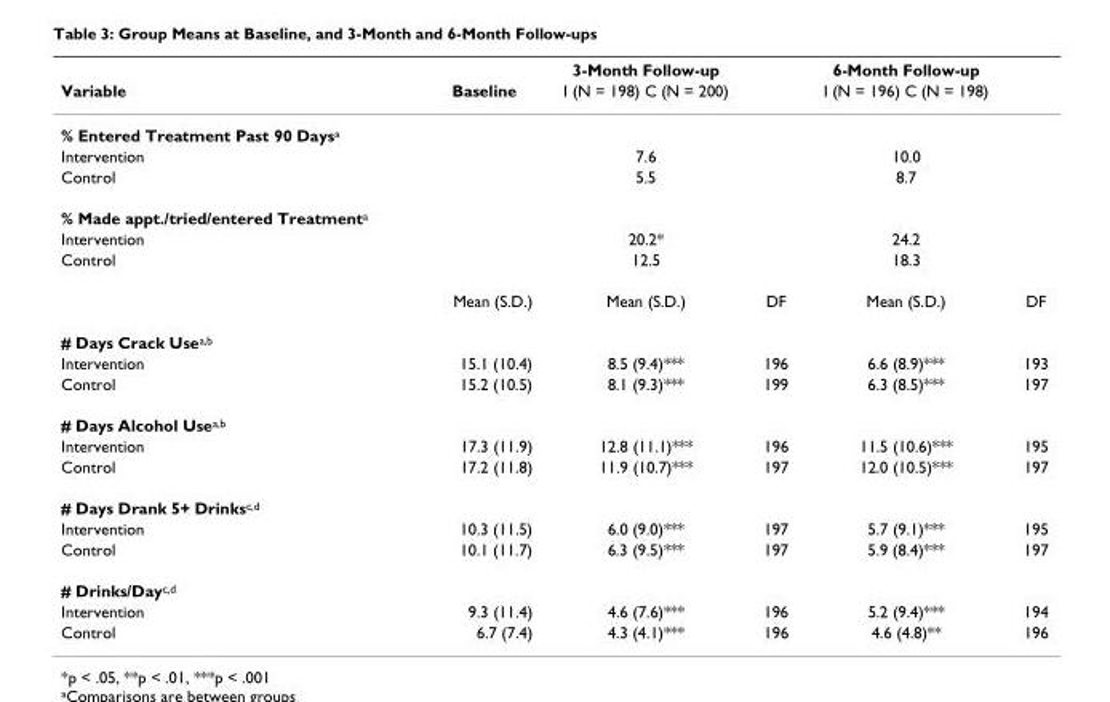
<table><thead><tr><td rowspan="2">Variable</td><td rowspan="2">Baseline</td><td rowspan="2">3-Month Follow-up I (N = 198) C (N = 200)</td><td rowspan="2"></td><td rowspan="2">6-Month Follow-up I (N = 196) C (N = 198)</td><td rowspan="2"></td></tr><tr></tr></thead><tbody><tr><td colspan="6">% Entered Treatment Past 90 Days<sup>a</sup></td></tr><tr><td>Intervention</td><td></td><td>7.6</td><td></td><td>10.0</td><td></td></tr><tr><td>Control</td><td></td><td>5.5</td><td></td><td>8.7</td><td></td></tr><tr><td colspan="6">% Made appt./tried/entered Treatment<sup>a</sup></td></tr><tr><td>Intervention</td><td></td><td>20.2*</td><td></td><td>24.2</td><td></td></tr><tr><td rowspan="2">Control</td><td></td><td>12.5</td><td></td><td>18.3</td><td></td></tr><tr><td>Mean (S.D.)</td><td>Mean (S.D.)</td><td>DF</td><td>Mean (S.D.)</td><td>DF</td></tr><tr><td colspan="6"># Days Crack Use<sup>a,b</sup></td></tr><tr><td>Intervention</td><td>15.1 (10.4)</td><td>8.5 (9.4)***</td><td>196</td><td>6.6 (8.9)***</td><td>193</td></tr><tr><td>Control</td><td>15.2 (10.5)</td><td>8.1 (9.3)***</td><td>199</td><td>6.3 (8.5)***</td><td>197</td></tr><tr><td colspan="6"># Days Alcohol Use<sup>a,b</sup></td></tr><tr><td>Intervention</td><td>17.3 (11.9)</td><td>12.8 (11.1)***</td><td>196</td><td>11.5 (10.6)***</td><td>195</td></tr><tr><td>Control</td><td>17.2 (11.8)</td><td>11.9 (10.7)***</td><td>197</td><td>12.0 (10.5)***</td><td>197</td></tr><tr><td colspan="6"># Days Drank 5+ Drinks<sup>c,d</sup></td></tr><tr><td>Intervention</td><td>10.3 (11.5)</td><td>6.0 (9.0)***</td><td>197</td><td>5.7 (9.1)***</td><td>195</td></tr><tr><td>Control</td><td>10.1 (11.7)</td><td>6.3 (9.5)***</td><td>197</td><td>5.9 (8.4)***</td><td>197</td></tr><tr><td colspan="6"># Drinks/Day<sup>c,d</sup></td></tr><tr><td>Intervention</td><td>9.3 (11.4)</td><td>4.6 (7.6)***</td><td>196</td><td>5.2 (9.4)***</td><td>194</td></tr><tr><td>Control</td><td>6.7 (7.4)</td><td>4.3 (4.1)***</td><td>196</td><td>4.6 (4.8)**</td><td>196</td></tr></tbody></table>